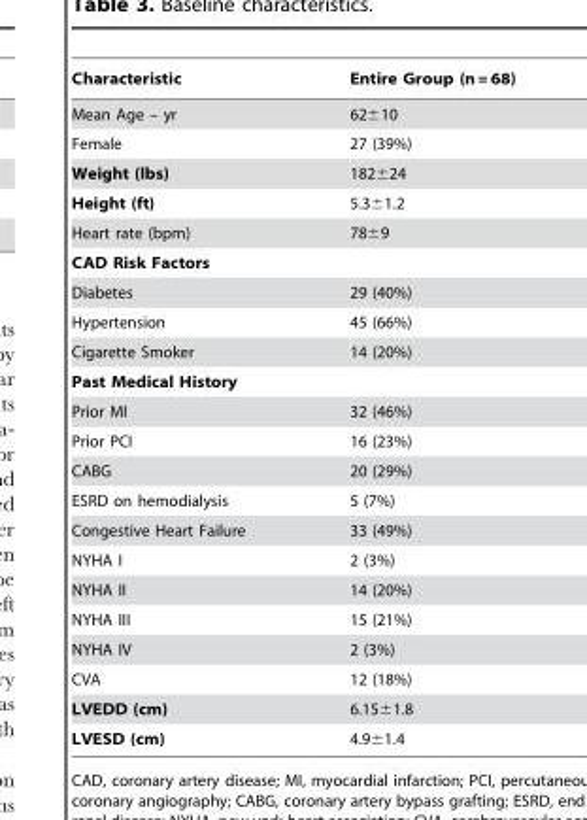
<table><thead><tr><td>Characteristic</td><td>Entire Group (n = 68)</td></tr></thead><tbody><tr><td>Mean Age – yr</td><td>62±10</td></tr><tr><td>Female</td><td>27 (39%)</td></tr><tr><td>Weight (lbs)</td><td>182±24</td></tr><tr><td>Height (ft)</td><td>5.3±1.2</td></tr><tr><td>Heart rate (bpm)</td><td>78±9</td></tr><tr><td colspan="2">CAD Risk Factors</td></tr><tr><td>Diabetes</td><td>29 (40%)</td></tr><tr><td>Hypertension</td><td>45 (66%)</td></tr><tr><td>Cigarette Smoker</td><td>14 (20%)</td></tr><tr><td colspan="2">Past Medical History</td></tr><tr><td>Prior MI</td><td>32 (46%)</td></tr><tr><td>Prior PCI</td><td>16 (23%)</td></tr><tr><td>CABG</td><td>20 (29%)</td></tr><tr><td>ESRD on hemodialysis</td><td>5 (7%)</td></tr><tr><td>Congestive Heart Failure</td><td>33 (49%)</td></tr><tr><td>NYHA I</td><td>2 (3%)</td></tr><tr><td>NYHA II</td><td>14 (20%)</td></tr><tr><td>NYHA III</td><td>15 (21%)</td></tr><tr><td>NYHA IV</td><td>2 (3%)</td></tr><tr><td>CVA</td><td>12 (18%)</td></tr><tr><td>LVEDD (cm)</td><td>6.15±1.8</td></tr><tr><td>LVESD (cm)</td><td>4.9±1.4</td></tr></tbody></table>